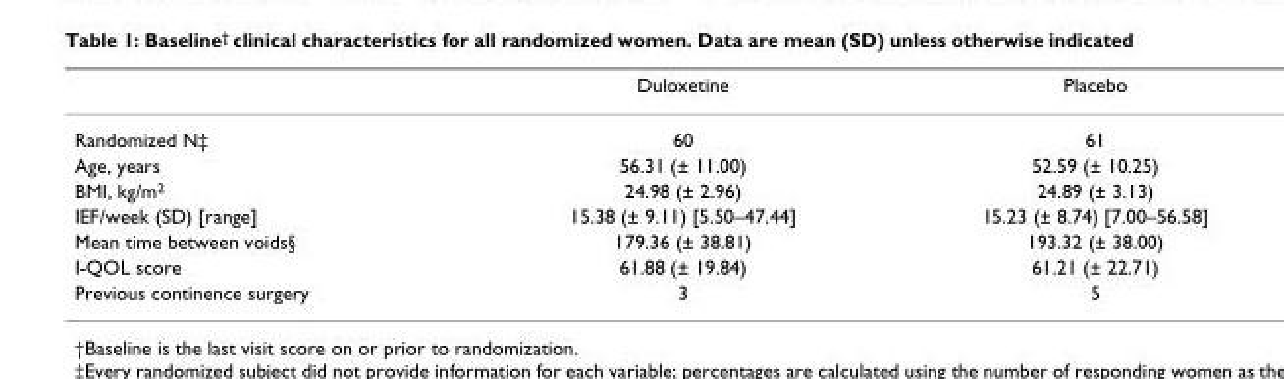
<table><thead><tr><td></td><td>Duloxetine</td><td>Placebo</td></tr></thead><tbody><tr><td>Randomized N‡</td><td>60</td><td>61</td></tr><tr><td>Age, years</td><td>56.31 (± 11.00)</td><td>52.59 (± 10.25)</td></tr><tr><td>BMI, kg/m<sup>2</sup></td><td>24.98 (± 2.96)</td><td>24.89 (± 3.13)</td></tr><tr><td>IEF/week (SD) [range]</td><td>15.38 (± 9.11) [5.50–47.44]</td><td>15.23 (± 8.74) [7.00–56.58]</td></tr><tr><td>Mean time between voids§</td><td>179.36 (± 38.81)</td><td>193.32 (± 38.00)</td></tr><tr><td>I-QOL score</td><td>61.88 (± 19.84)</td><td>61.21 (± 22.71)</td></tr><tr><td>Previous continence surgery</td><td>3</td><td>5</td></tr></tbody></table>